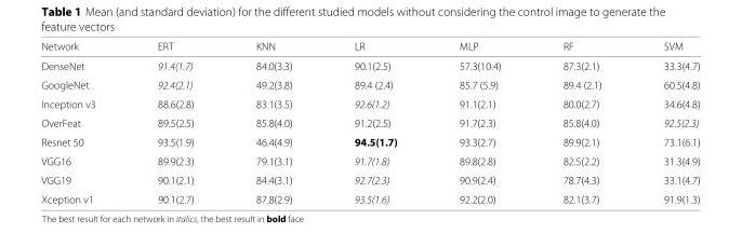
<table><thead><tr><td>Network</td><td>ERT</td><td>KNN</td><td>LR</td><td>MLP</td><td>RF</td><td>SVM</td></tr></thead><tbody><tr><td>DenseNet</td><td>91.4(1.7)</td><td>84.0(3.3)</td><td>90.1(2.5)</td><td>57.3(10.4)</td><td>87.3(2.1)</td><td>33.3(4.7)</td></tr><tr><td>GoogleNet</td><td>92.4(2.1)</td><td>49.2(3.8)</td><td>89.4 (2.4)</td><td>85.7 (5.9)</td><td>89.4 (2.1)</td><td>60.5(4.8)</td></tr><tr><td>Inception v3</td><td>88.6(2.8)</td><td>83.1(3.5)</td><td>92.6(1.2)</td><td>91.1(2.1)</td><td>80.0(2.7)</td><td>34.6(4.8)</td></tr><tr><td>OverFeat</td><td>89.5(2.5)</td><td>85.8(4.0)</td><td>91.2(2.5)</td><td>91.7(2.3)</td><td>85.8(4.0)</td><td>92.5(2.3)</td></tr><tr><td>Resnet 50</td><td>93.5(1.9)</td><td>46.4(4.9)</td><td>94.5(1.7)</td><td>93.3(2.7)</td><td>89.9(2.1)</td><td>73.1(6.1)</td></tr><tr><td>VGG16</td><td>89.9(2.3)</td><td>79.1(3.1)</td><td>91.7(1.8)</td><td>89.8(2.8)</td><td>82.5(2.2)</td><td>31.3(4.9)</td></tr><tr><td>VGG19</td><td>90.1(2.1)</td><td>84.4(3.1)</td><td>92.7(2.3)</td><td>90.9(2.4)</td><td>78.7(4.3)</td><td>33.1(4.7)</td></tr><tr><td>Xception v1</td><td>90.1(2.7)</td><td>87.8(2.9)</td><td>93.5(1.6)</td><td>92.2(2.0)</td><td>82.1(3.7)</td><td>91.9(1.3)</td></tr></tbody></table>